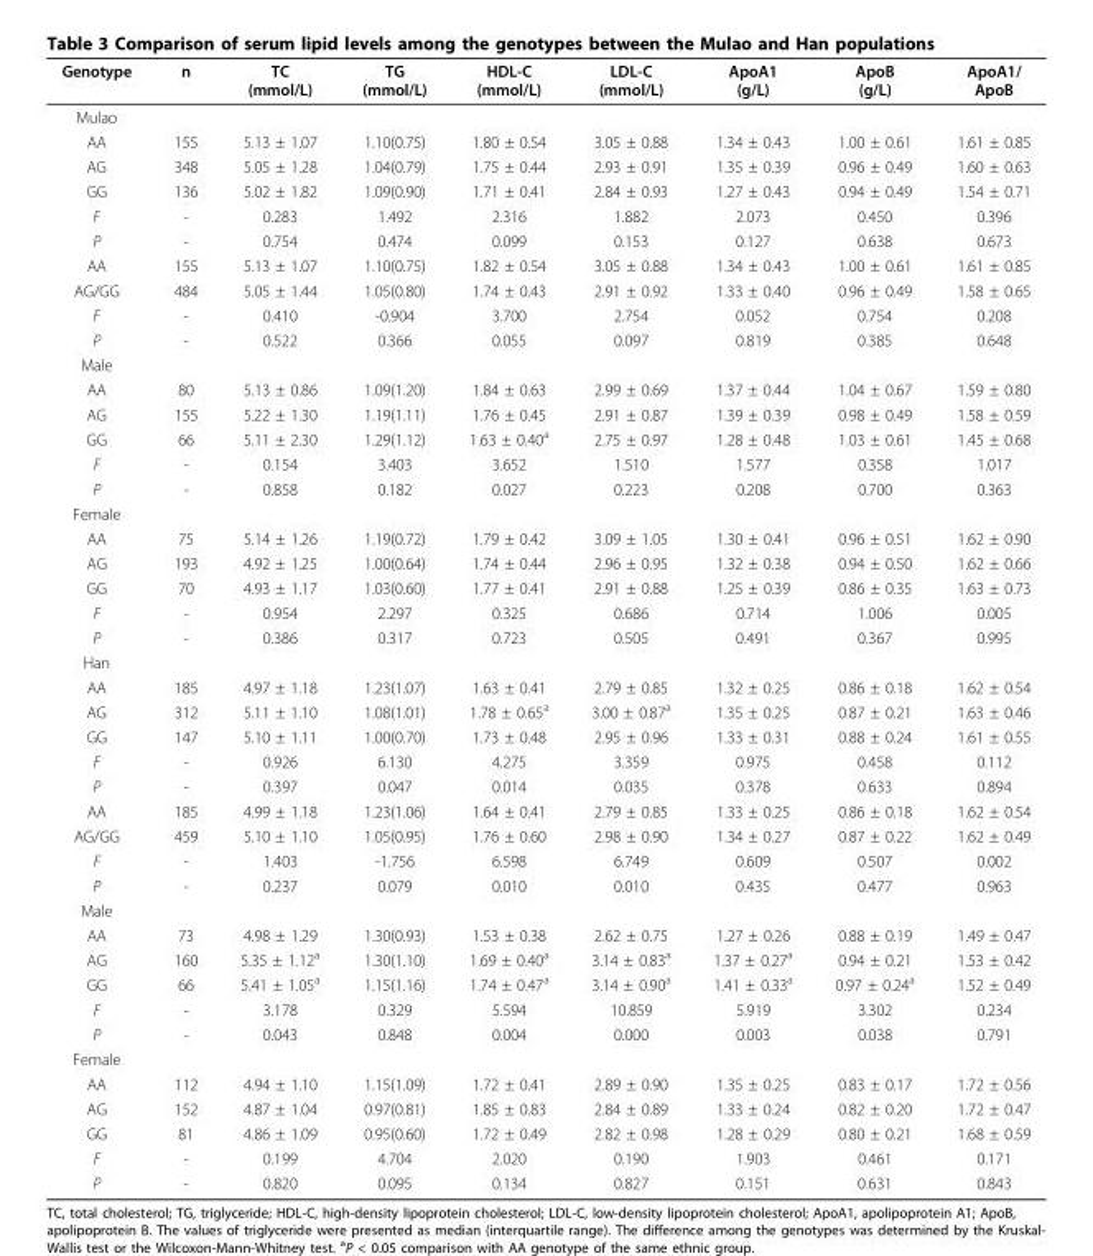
<table><thead><tr><td>Genotype</td><td>n</td><td>TC (mmol/L)</td><td>TG (mmol/L)</td><td>HDL-C (mmol/L)</td><td>LDL-C (mmol/L)</td><td>ApoA1 (g/L)</td><td>ApoB (g/L)</td><td>ApoA1/ ApoB</td></tr></thead><tbody><tr><td colspan="9">Mulao</td></tr><tr><td>AA</td><td>155</td><td>5.13 ± 1.07</td><td>1.10(0.75)</td><td>1.80 ± 0.54</td><td>3.05 ± 0.88</td><td>1.34 ± 0.43</td><td>1.00 ± 0.61</td><td>1.61 ± 0.85</td></tr><tr><td>AG</td><td>348</td><td>5.05 ± 1.28</td><td>1.04(0.79)</td><td>1.75 ± 0.44</td><td>2.93 ± 0.91</td><td>1.35 ± 0.39</td><td>0.96 ± 0.49</td><td>1.60 ± 0.63</td></tr><tr><td>GG</td><td>136</td><td>5.02 ± 1.82</td><td>1.09(0.90)</td><td>1.71 ± 0.41</td><td>2.84 ± 0.93</td><td>1.27 ± 0.43</td><td>0.94 ± 0.49</td><td>1.54 ± 0.71</td></tr><tr><td>F</td><td>-</td><td>0.283</td><td>1.492</td><td>2.316</td><td>1.882</td><td>2.073</td><td>0.450</td><td>0.396</td></tr><tr><td>P</td><td>-</td><td>0.754</td><td>0.474</td><td>0.099</td><td>0.153</td><td>0.127</td><td>0.638</td><td>0.673</td></tr><tr><td>AA</td><td>155</td><td>5.13 ± 1.07</td><td>1.10(0.75)</td><td>1.82 ± 0.54</td><td>3.05 ± 0.88</td><td>1.34 ± 0.43</td><td>1.00 ± 0.61</td><td>1.61 ± 0.85</td></tr><tr><td>AG/GG</td><td>484</td><td>5.05 ± 1.44</td><td>1.05(0.80)</td><td>1.74 ± 0.43</td><td>2.91 ± 0.92</td><td>1.33 ± 0.40</td><td>0.96 ± 0.49</td><td>1.58 ± 0.65</td></tr><tr><td>F</td><td>-</td><td>0.410</td><td>-0.904</td><td>3.700</td><td>2.754</td><td>0.052</td><td>0.754</td><td>0.208</td></tr><tr><td>P</td><td>-</td><td>0.522</td><td>0.366</td><td>0.055</td><td>0.097</td><td>0.819</td><td>0.385</td><td>0.648</td></tr><tr><td colspan="9">Male</td></tr><tr><td>AA</td><td>80</td><td>5.13 ± 0.86</td><td>1.09(1.20)</td><td>1.84 ± 0.63</td><td>2.99 ± 0.69</td><td>1.37 ± 0.44</td><td>1.04 ± 0.67</td><td>1.59 ± 0.80</td></tr><tr><td>AG</td><td>155</td><td>5.22 ± 1.30</td><td>1.19(1.11)</td><td>1.76 ± 0.45</td><td>2.91 ± 0.87</td><td>1.39 ± 0.39</td><td>0.98 ± 0.49</td><td>1.58 ± 0.59</td></tr><tr><td>GG</td><td>66</td><td>5.11 ± 2.30</td><td>1.29(1.12)</td><td>1.63 ± 0.40<sup>a</sup></td><td>2.75 ± 0.97</td><td>1.28 ± 0.48</td><td>1.03 ± 0.61</td><td>1.45 ± 0.68</td></tr><tr><td>F</td><td>-</td><td>0.154</td><td>3.403</td><td>3.652</td><td>1.510</td><td>1.577</td><td>0.358</td><td>1.017</td></tr><tr><td>P</td><td>-</td><td>0.858</td><td>0.182</td><td>0.027</td><td>0.223</td><td>0.208</td><td>0.700</td><td>0.363</td></tr><tr><td colspan="9">Female</td></tr><tr><td>AA</td><td>75</td><td>5.14 ± 1.26</td><td>1.19(0.72)</td><td>1.79 ± 0.42</td><td>3.09 ± 1.05</td><td>1.30 ± 0.41</td><td>0.96 ± 0.51</td><td>1.62 ± 0.90</td></tr><tr><td>AG</td><td>193</td><td>4.92 ± 1.25</td><td>1.00(0.64)</td><td>1.74 ± 0.44</td><td>2.96 ± 0.95</td><td>1.32 ± 0.38</td><td>0.94 ± 0.50</td><td>1.62 ± 0.66</td></tr><tr><td>GG</td><td>70</td><td>4.93 ± 1.17</td><td>1.03(0.60)</td><td>1.77 ± 0.41</td><td>2.91 ± 0.88</td><td>1.25 ± 0.39</td><td>0.86 ± 0.35</td><td>1.63 ± 0.73</td></tr><tr><td>F</td><td>-</td><td>0.954</td><td>2.297</td><td>0.325</td><td>0.686</td><td>0.714</td><td>1.006</td><td>0.005</td></tr><tr><td>P</td><td>-</td><td>0.386</td><td>0.317</td><td>0.723</td><td>0.505</td><td>0.491</td><td>0.367</td><td>0.995</td></tr><tr><td colspan="9">Han</td></tr><tr><td>AA</td><td>185</td><td>4.97 ± 1.18</td><td>1.23(1.07)</td><td>1.63 ± 0.41</td><td>2.79 ± 0.85</td><td>1.32 ± 0.25</td><td>0.86 ± 0.18</td><td>1.62 ± 0.54</td></tr><tr><td>AG</td><td>312</td><td>5.11 ± 1.10</td><td>1.08(1.01)</td><td>1.78 ± 0.65<sup>a</sup></td><td>3.00 ± 0.87<sup>a</sup></td><td>1.35 ± 0.25</td><td>0.87 ± 0.21</td><td>1.63 ± 0.46</td></tr><tr><td>GG</td><td>147</td><td>5.10 ± 1.11</td><td>1.00(0.70)</td><td>1.73 ± 0.48</td><td>2.95 ± 0.96</td><td>1.33 ± 0.31</td><td>0.88 ± 0.24</td><td>1.61 ± 0.55</td></tr><tr><td>F</td><td>-</td><td>0.926</td><td>6.130</td><td>4.275</td><td>3.359</td><td>0.975</td><td>0.458</td><td>0.112</td></tr><tr><td>P</td><td>-</td><td>0.397</td><td>0.047</td><td>0.014</td><td>0.035</td><td>0.378</td><td>0.633</td><td>0.894</td></tr><tr><td>AA</td><td>185</td><td>4.99 ± 1.18</td><td>1.23(1.06)</td><td>1.64 ± 0.41</td><td>2.79 ± 0.85</td><td>1.33 ± 0.25</td><td>0.86 ± 0.18</td><td>1.62 ± 0.54</td></tr><tr><td>AG/GG</td><td>459</td><td>5.10 ± 1.10</td><td>1.05(0.95)</td><td>1.76 ± 0.60</td><td>2.98 ± 0.90</td><td>1.34 ± 0.27</td><td>0.87 ± 0.22</td><td>1.62 ± 0.49</td></tr><tr><td>F</td><td>-</td><td>1.403</td><td>-1.756</td><td>6.598</td><td>6.749</td><td>0.609</td><td>0.507</td><td>0.002</td></tr><tr><td>P</td><td>-</td><td>0.237</td><td>0.079</td><td>0.010</td><td>0.010</td><td>0.435</td><td>0.477</td><td>0.963</td></tr><tr><td colspan="9">Male</td></tr><tr><td>AA</td><td>73</td><td>4.98 ± 1.29</td><td>1.30(0.93)</td><td>1.53 ± 0.38</td><td>2.62 ± 0.75</td><td>1.27 ± 0.26</td><td>0.88 ± 0.19</td><td>1.49 ± 0.47</td></tr><tr><td>AG</td><td>160</td><td>5.35 ± 1.12<sup>a</sup></td><td>1.30(1.10)</td><td>1.69 ± 0.40<sup>a</sup></td><td>3.14 ± 0.83<sup>a</sup></td><td>1.37 ± 0.27<sup>a</sup></td><td>0.94 ± 0.21</td><td>1.53 ± 0.42</td></tr><tr><td>GG</td><td>66</td><td>5.41 ± 1.05<sup>a</sup></td><td>1.15(1.16)</td><td>1.74 ± 0.47<sup>a</sup></td><td>3.14 ± 0.90<sup>a</sup></td><td>1.41 ± 0.33<sup>a</sup></td><td>0.97 ± 0.24<sup>a</sup></td><td>1.52 ± 0.49</td></tr><tr><td>F</td><td>-</td><td>3.178</td><td>0.329</td><td>5.594</td><td>10.859</td><td>5.919</td><td>3.302</td><td>0.234</td></tr><tr><td>P</td><td>-</td><td>0.043</td><td>0.848</td><td>0.004</td><td>0.000</td><td>0.003</td><td>0.038</td><td>0.791</td></tr><tr><td colspan="9">Female</td></tr><tr><td>AA</td><td>112</td><td>4.94 ± 1.10</td><td>1.15(1.09)</td><td>1.72 ± 0.41</td><td>2.89 ± 0.90</td><td>1.35 ± 0.25</td><td>0.83 ± 0.17</td><td>1.72 ± 0.56</td></tr><tr><td>AG</td><td>152</td><td>4.87 ± 1.04</td><td>0.97(0.81)</td><td>1.85 ± 0.83</td><td>2.84 ± 0.89</td><td>1.33 ± 0.24</td><td>0.82 ± 0.20</td><td>1.72 ± 0.47</td></tr><tr><td>GG</td><td>81</td><td>4.86 ± 1.09</td><td>0.95(0.60)</td><td>1.72 ± 0.49</td><td>2.82 ± 0.98</td><td>1.28 ± 0.29</td><td>0.80 ± 0.21</td><td>1.68 ± 0.59</td></tr><tr><td>F</td><td>-</td><td>0.199</td><td>4.704</td><td>2.020</td><td>0.190</td><td>1.903</td><td>0.461</td><td>0.171</td></tr><tr><td>P</td><td>-</td><td>0.820</td><td>0.095</td><td>0.134</td><td>0.827</td><td>0.151</td><td>0.631</td><td>0.843</td></tr></tbody></table>